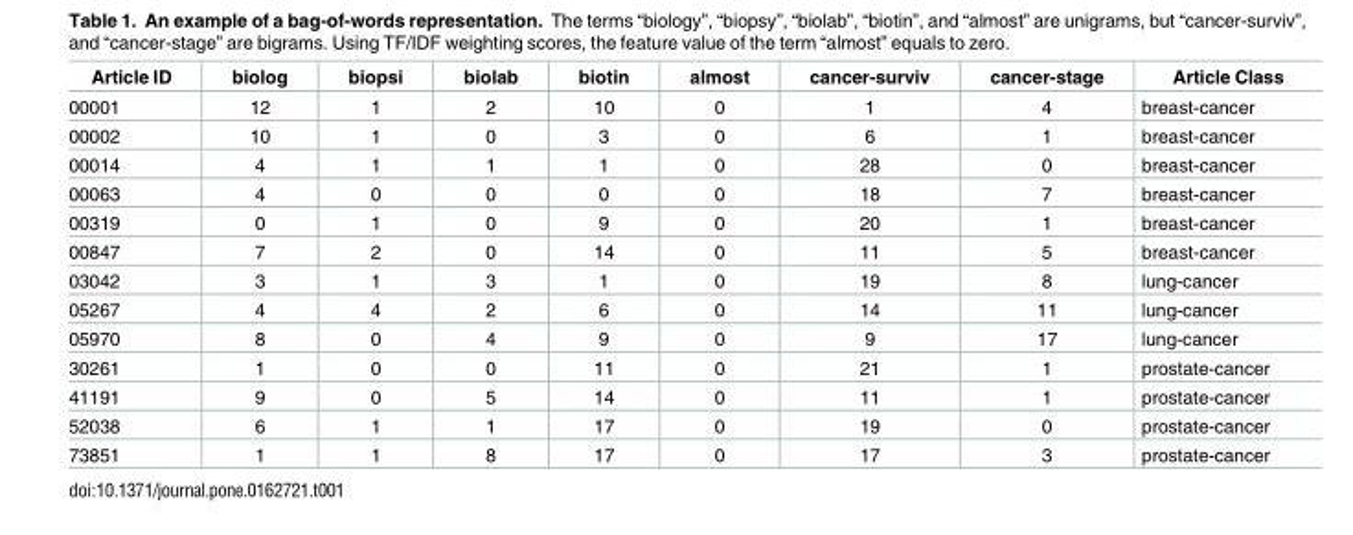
<table><thead><tr><td>Article ID</td><td>biolog</td><td>biopsi</td><td>biolab</td><td>biotin</td><td>almost</td><td>cancer-surviv</td><td>cancer-stage</td><td>Article Class</td></tr></thead><tbody><tr><td>00001</td><td>12</td><td>1</td><td>2</td><td>10</td><td>0</td><td>1</td><td>4</td><td>breast-cancer</td></tr><tr><td>00002</td><td>10</td><td>1</td><td>0</td><td>3</td><td>0</td><td>6</td><td>1</td><td>breast-cancer</td></tr><tr><td>00014</td><td>4</td><td>1</td><td>1</td><td>1</td><td>0</td><td>28</td><td>0</td><td>breast-cancer</td></tr><tr><td>00063</td><td>4</td><td>0</td><td>0</td><td>0</td><td>0</td><td>18</td><td>7</td><td>breast-cancer</td></tr><tr><td>00319</td><td>0</td><td>1</td><td>0</td><td>9</td><td>0</td><td>20</td><td>1</td><td>breast-cancer</td></tr><tr><td>00847</td><td>7</td><td>2</td><td>0</td><td>14</td><td>0</td><td>11</td><td>5</td><td>breast-cancer</td></tr><tr><td>03042</td><td>3</td><td>1</td><td>3</td><td>1</td><td>0</td><td>19</td><td>8</td><td>lung-cancer</td></tr><tr><td>05267</td><td>4</td><td>4</td><td>2</td><td>6</td><td>0</td><td>14</td><td>11</td><td>lung-cancer</td></tr><tr><td>05970</td><td>8</td><td>0</td><td>4</td><td>9</td><td>0</td><td>9</td><td>17</td><td>lung-cancer</td></tr><tr><td>30261</td><td>1</td><td>0</td><td>0</td><td>11</td><td>0</td><td>21</td><td>1</td><td>prostate-cancer</td></tr><tr><td>41191</td><td>9</td><td>0</td><td>5</td><td>14</td><td>0</td><td>11</td><td>1</td><td>prostate-cancer</td></tr><tr><td>52038</td><td>6</td><td>1</td><td>1</td><td>17</td><td>0</td><td>19</td><td>0</td><td>prostate-cancer</td></tr><tr><td>73851</td><td>1</td><td>1</td><td>8</td><td>17</td><td>0</td><td>17</td><td>3</td><td>prostate-cancer</td></tr></tbody></table>